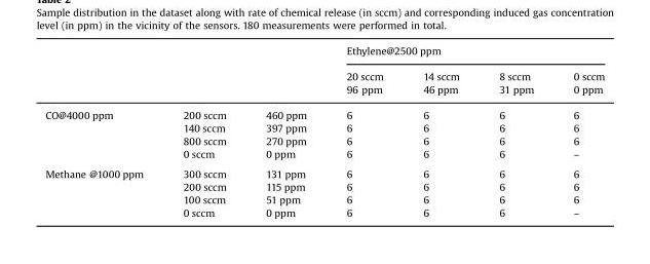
<table><thead><tr><td rowspan="3"></td><td rowspan="3"></td><td rowspan="3"></td><td colspan="4">Ethylene@2500 ppm</td></tr><tr><td rowspan="2">20 sccm 96 ppm</td><td rowspan="2">14 sccm 46 ppm</td><td rowspan="2">8 sccm 31 ppm</td><td rowspan="2">0 sccm 0 ppm</td></tr><tr></tr></thead><tbody><tr><td rowspan="4">CO@4000 ppm</td><td>200 sccm</td><td>460 ppm</td><td>6</td><td>6</td><td>6</td><td>6</td></tr><tr><td>140 sccm</td><td>397 ppm</td><td>6</td><td>6</td><td>6</td><td>6</td></tr><tr><td>800 sccm</td><td>270 ppm</td><td>6</td><td>6</td><td>6</td><td>6</td></tr><tr><td>0 sccm</td><td>0 ppm</td><td>6</td><td>6</td><td>6</td><td>–</td></tr><tr><td rowspan="4">Methane @1000 ppm</td><td>300 sccm</td><td>131 ppm</td><td>6</td><td>6</td><td>6</td><td>6</td></tr><tr><td>200 sccm</td><td>115 ppm</td><td>6</td><td>6</td><td>6</td><td>6</td></tr><tr><td>100 sccm</td><td>51 ppm</td><td>6</td><td>6</td><td>6</td><td>6</td></tr><tr><td>0 sccm</td><td>0 ppm</td><td>6</td><td>6</td><td>6</td><td>–</td></tr></tbody></table>